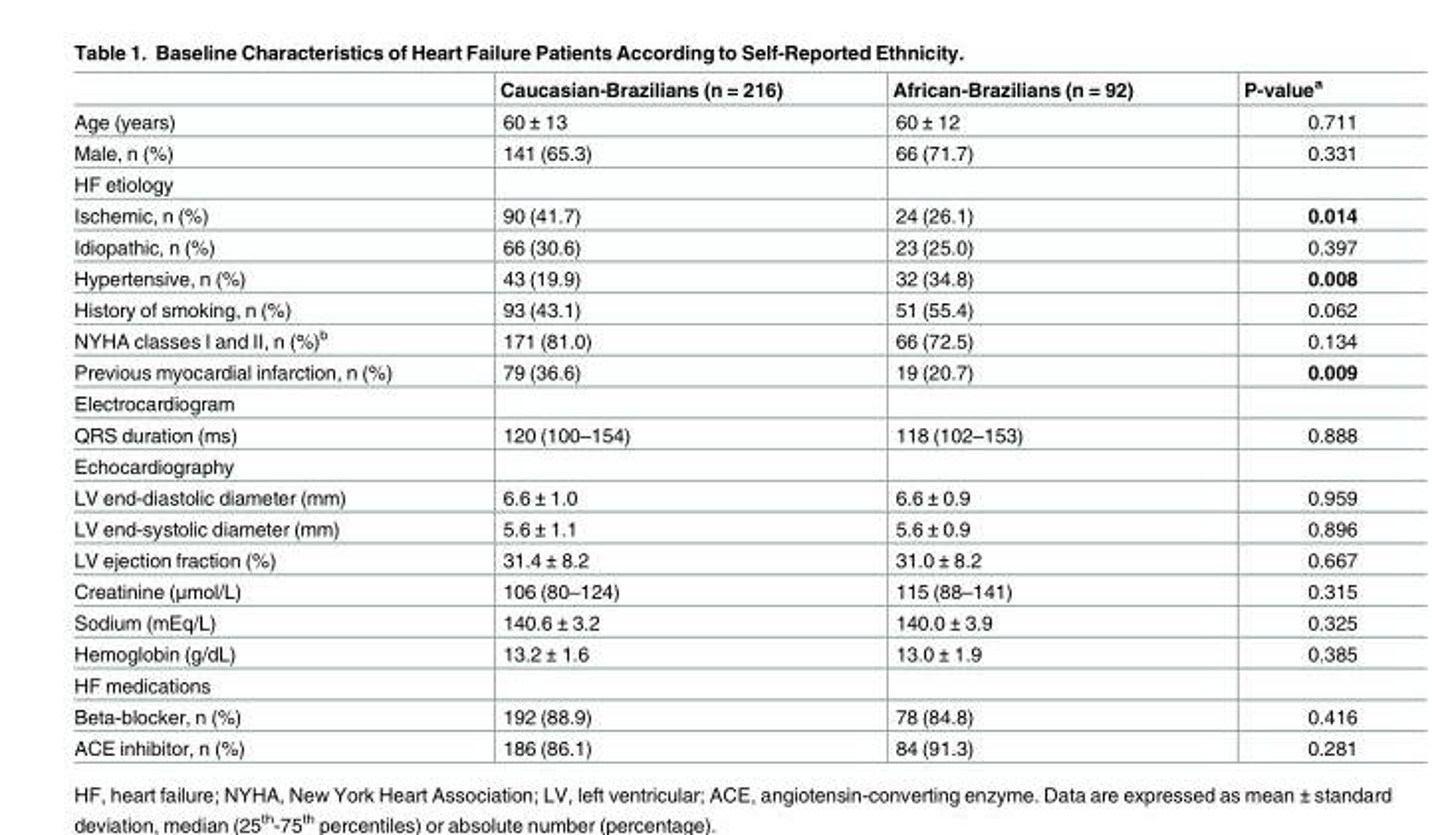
<table><thead><tr><td></td><td>Caucasian-Brazilians (n = 216)</td><td>African-Brazilians (n = 92)</td><td>P-value<sup>a</sup></td></tr></thead><tbody><tr><td>Age (years)</td><td>60 ± 13</td><td>60 ± 12</td><td>0.711</td></tr><tr><td>Male, n (%)</td><td>141 (65.3)</td><td>66 (71.7)</td><td>0.331</td></tr><tr><td colspan="4">HF etiology</td></tr><tr><td>Ischemic, n (%)</td><td>90 (41.7)</td><td>24 (26.1)</td><td>0.014</td></tr><tr><td>Idiopathic, n (%)</td><td>66 (30.6)</td><td>23 (25.0)</td><td>0.397</td></tr><tr><td>Hypertensive, n (%)</td><td>43 (19.9)</td><td>32 (34.8)</td><td>0.008</td></tr><tr><td>History of smoking, n (%)</td><td>93 (43.1)</td><td>51 (55.4)</td><td>0.062</td></tr><tr><td>NYHA classes I and II, n (%)<sup>b</sup></td><td>171 (81.0)</td><td>66 (72.5)</td><td>0.134</td></tr><tr><td>Previous myocardial infarction, n (%)</td><td>79 (36.6)</td><td>19 (20.7)</td><td>0.009</td></tr><tr><td colspan="4">Electrocardiogram</td></tr><tr><td>QRS duration (ms)</td><td>120 (100–154)</td><td>118 (102–153)</td><td>0.888</td></tr><tr><td colspan="4">Echocardiography</td></tr><tr><td>LV end-diastolic diameter (mm)</td><td>6.6 ± 1.0</td><td>6.6 ± 0.9</td><td>0.959</td></tr><tr><td>LV end-systolic diameter (mm)</td><td>5.6 ± 1.1</td><td>5.6 ± 0.9</td><td>0.896</td></tr><tr><td>LV ejection fraction (%)</td><td>31.4 ± 8.2</td><td>31.0 ± 8.2</td><td>0.667</td></tr><tr><td>Creatinine (μmol/L)</td><td>106 (80–124)</td><td>115 (88–141)</td><td>0.315</td></tr><tr><td>Sodium (mEq/L)</td><td>140.6 ± 3.2</td><td>140.0 ± 3.9</td><td>0.325</td></tr><tr><td>Hemoglobin (g/dL)</td><td>13.2 ± 1.6</td><td>13.0 ± 1.9</td><td>0.385</td></tr><tr><td colspan="4">HF medications</td></tr><tr><td>Beta-blocker, n (%)</td><td>192 (88.9)</td><td>78 (84.8)</td><td>0.416</td></tr><tr><td>ACE inhibitor, n (%)</td><td>186 (86.1)</td><td>84 (91.3)</td><td>0.281</td></tr></tbody></table>